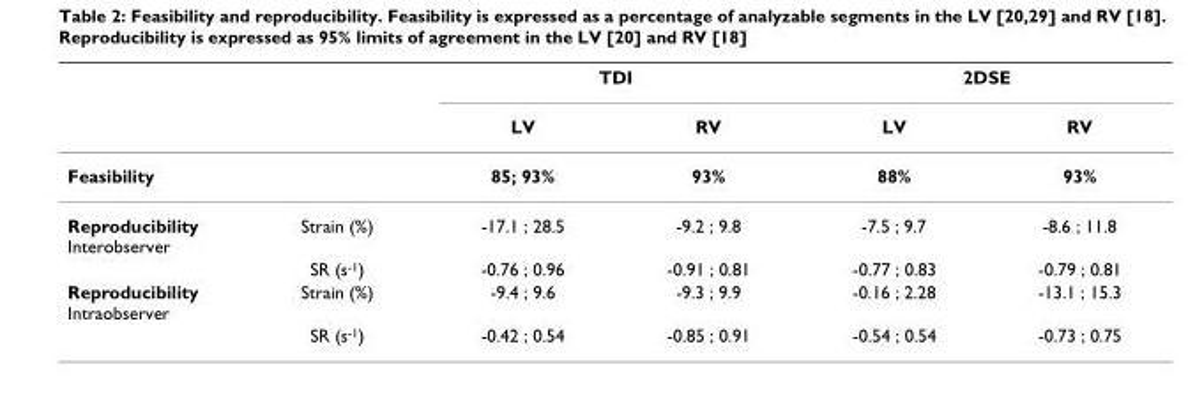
<table><thead><tr><td rowspan="2"></td><td rowspan="2"></td><td colspan="2">TDI</td><td colspan="2">2DSE</td></tr><tr><td>LV</td><td>RV</td><td>LV</td><td>RV</td></tr></thead><tbody><tr><td colspan="2">Feasibility</td><td>85; 93%</td><td>93%</td><td>88%</td><td>93%</td></tr><tr><td rowspan="2">Reproducibility Interobserver</td><td>Strain (%)</td><td>-17.1 ; 28.5</td><td>-9.2 ; 9.8</td><td>-7.5 ; 9.7</td><td>-8.6 ; 11.8</td></tr><tr><td>SR (s<sup>-1</sup>)</td><td>-0.76 ; 0.96</td><td>-0.91 ; 0.81</td><td>-0.77 ; 0.83</td><td>-0.79 ; 0.81</td></tr><tr><td rowspan="2">Reproducibility Intraobserver</td><td>Strain (%)</td><td>-9.4 ; 9.6</td><td>-9.3 ; 9.9</td><td>-0.16 ; 2.28</td><td>-13.1 ; 15.3</td></tr><tr><td>SR (s<sup>-1</sup>)</td><td>-0.42 ; 0.54</td><td>-0.85 ; 0.91</td><td>-0.54 ; 0.54</td><td>-0.73 ; 0.75</td></tr></tbody></table>